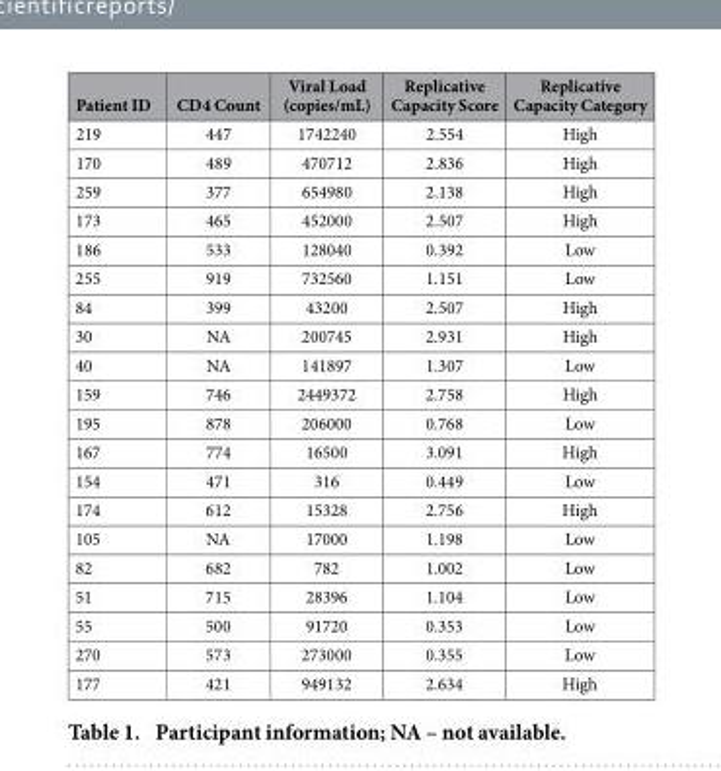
<table><thead><tr><td>Patient ID</td><td>CD4 Count</td><td>Viral Load (copies/mL)</td><td>Replicative Capacity Score</td><td>Replicative Capacity Category</td></tr></thead><tbody><tr><td>219</td><td>447</td><td>1742240</td><td>2.554</td><td>High</td></tr><tr><td>170</td><td>489</td><td>470712</td><td>2.836</td><td>High</td></tr><tr><td>259</td><td>377</td><td>654980</td><td>2.138</td><td>High</td></tr><tr><td>173</td><td>465</td><td>452000</td><td>2.507</td><td>High</td></tr><tr><td>186</td><td>533</td><td>128040</td><td>0.392</td><td>Low</td></tr><tr><td>255</td><td>919</td><td>732560</td><td>1.151</td><td>Low</td></tr><tr><td>84</td><td>399</td><td>43200</td><td>2.507</td><td>High</td></tr><tr><td>30</td><td>NA</td><td>200745</td><td>2.931</td><td>High</td></tr><tr><td>40</td><td>NA</td><td>141897</td><td>1.307</td><td>Low</td></tr><tr><td>159</td><td>746</td><td>2449372</td><td>2.758</td><td>High</td></tr><tr><td>195</td><td>878</td><td>206000</td><td>0.768</td><td>Low</td></tr><tr><td>167</td><td>774</td><td>16500</td><td>3.091</td><td>High</td></tr><tr><td>154</td><td>471</td><td>316</td><td>0.449</td><td>Low</td></tr><tr><td>174</td><td>612</td><td>15328</td><td>2.756</td><td>High</td></tr><tr><td>105</td><td>NA</td><td>17000</td><td>1.198</td><td>Low</td></tr><tr><td>82</td><td>682</td><td>782</td><td>1.002</td><td>Low</td></tr><tr><td>51</td><td>715</td><td>28396</td><td>1.104</td><td>Low</td></tr><tr><td>55</td><td>500</td><td>91720</td><td>0.353</td><td>Low</td></tr><tr><td>270</td><td>573</td><td>273000</td><td>0.355</td><td>Low</td></tr><tr><td>177</td><td>421</td><td>949132</td><td>2.634</td><td>High</td></tr></tbody></table>